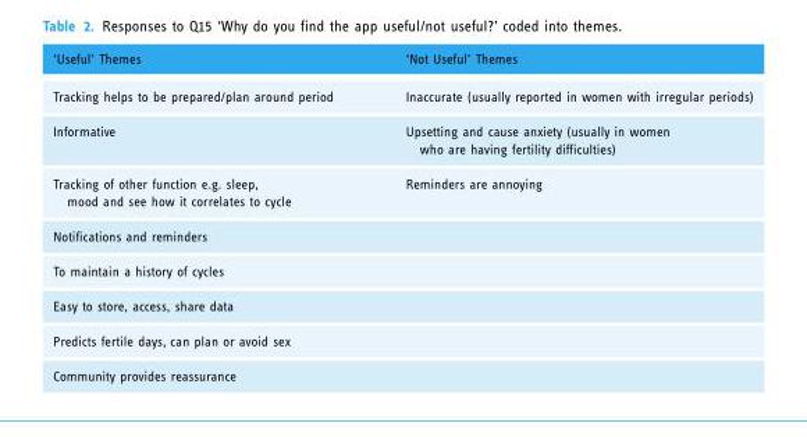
<table><thead><tr><td>‘Useful’ Themes</td><td>‘Not Useful’ Themes</td></tr></thead><tbody><tr><td>Tracking helps to be prepared/plan around period</td><td>Inaccurate (usually reported in women with irregular periods)</td></tr><tr><td>Informative</td><td>Upsetting and cause anxiety (usually in women who are having fertility difficulties)</td></tr><tr><td>Tracking of other function e.g. sleep, mood and see how it correlates to cycle</td><td>Reminders are annoying</td></tr><tr><td colspan="2">Notifications and reminders</td></tr><tr><td colspan="2">To maintain a history of cycles</td></tr><tr><td colspan="2">Easy to store, access, share data</td></tr><tr><td colspan="2">Predicts fertile days, can plan or avoid sex</td></tr><tr><td>Community provides reassurance</td><td></td></tr></tbody></table>